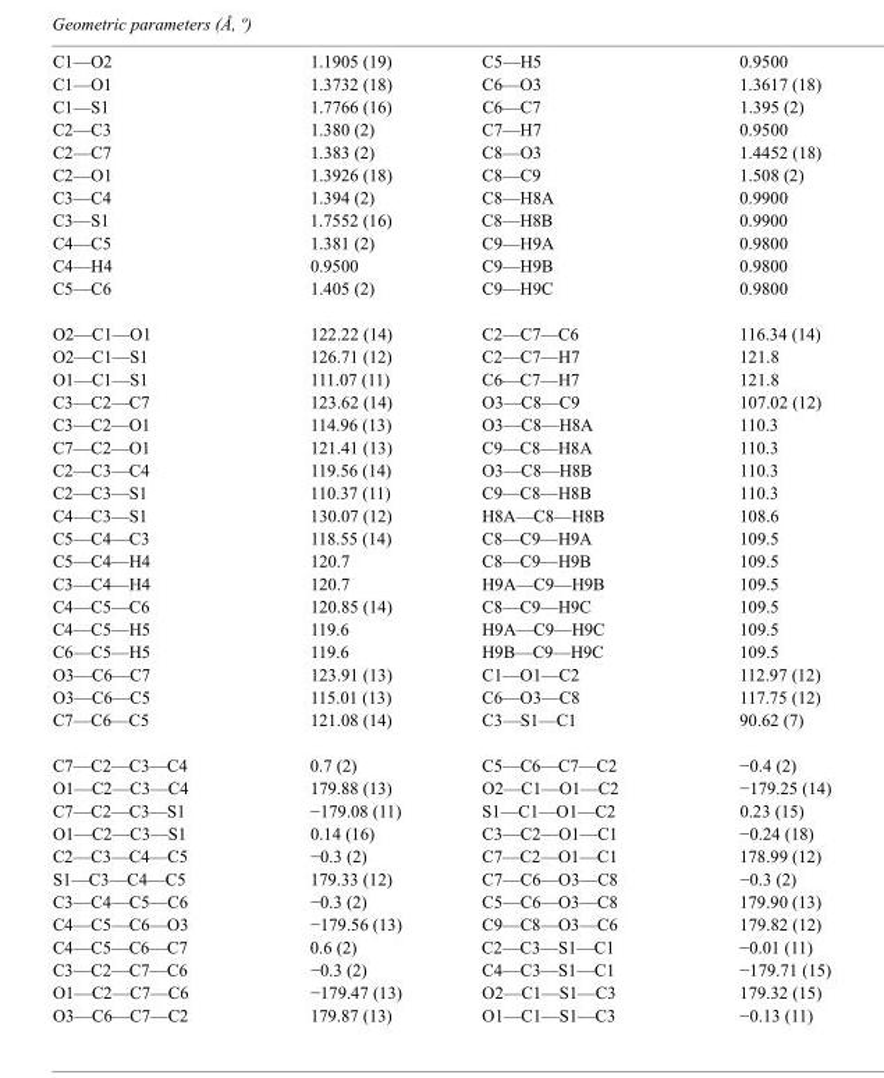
<table><tbody><tr><td>C1—O2</td><td>1.1905 (19)</td><td>C5—H5</td><td>0.9500</td></tr><tr><td>C1—O1</td><td>1.3732 (18)</td><td>C6—O3</td><td>1.3617 (18)</td></tr><tr><td>C1—S1</td><td>1.7766 (16)</td><td>C6—C7</td><td>1.395 (2)</td></tr><tr><td>C2—C3</td><td>1.380 (2)</td><td>C7—H7</td><td>0.9500</td></tr><tr><td>C2—C7</td><td>1.383 (2)</td><td>C8—O3</td><td>1.4452 (18)</td></tr><tr><td>C2—O1</td><td>1.3926 (18)</td><td>C8—C9</td><td>1.508 (2)</td></tr><tr><td>C3—C4</td><td>1.394 (2)</td><td>C8—H8A</td><td>0.9900</td></tr><tr><td>C3—S1</td><td>1.7552 (16)</td><td>C8—H8B</td><td>0.9900</td></tr><tr><td>C4—C5</td><td>1.381 (2)</td><td>C9—H9A</td><td>0.9800</td></tr><tr><td>C4—H4</td><td>0.9500</td><td>C9—H9B</td><td>0.9800</td></tr><tr><td>C5—C6</td><td>1.405 (2)</td><td>C9—H9C</td><td>0.9800</td></tr><tr><td>O2—C1—O1</td><td>122.22 (14)</td><td>C2—C7—C6</td><td>116.34 (14)</td></tr><tr><td>O2—C1—S1</td><td>126.71 (12)</td><td>C2—C7—H7</td><td>121.8</td></tr><tr><td>O1—C1—S1</td><td>111.07 (11)</td><td>C6—C7—H7</td><td>121.8</td></tr><tr><td>C3—C2—C7</td><td>123.62 (14)</td><td>O3—C8—C9</td><td>107.02 (12)</td></tr><tr><td>C3—C2—O1</td><td>114.96 (13)</td><td>O3—C8—H8A</td><td>110.3</td></tr><tr><td>C7—C2—O1</td><td>121.41 (13)</td><td>C9—C8—H8A</td><td>110.3</td></tr><tr><td>C2—C3—C4</td><td>119.56 (14)</td><td>O3—C8—H8B</td><td>110.3</td></tr><tr><td>C2—C3—S1</td><td>110.37 (11)</td><td>C9—C8—H8B</td><td>110.3</td></tr><tr><td>C4—C3—S1</td><td>130.07 (12)</td><td>H8A—C8—H8B</td><td>108.6</td></tr><tr><td>C5—C4—C3</td><td>118.55 (14)</td><td>C8—C9—H9A</td><td>109.5</td></tr><tr><td>C5—C4—H4</td><td>120.7</td><td>C8—C9—H9B</td><td>109.5</td></tr><tr><td>C3—C4—H4</td><td>120.7</td><td>H9A—C9—H9B</td><td>109.5</td></tr><tr><td>C4—C5—C6</td><td>120.85 (14)</td><td>C8—C9—H9C</td><td>109.5</td></tr><tr><td>C4—C5—H5</td><td>119.6</td><td>H9A—C9—H9C</td><td>109.5</td></tr><tr><td>C6—C5—H5</td><td>119.6</td><td>H9B—C9—H9C</td><td>109.5</td></tr><tr><td>O3—C6—C7</td><td>123.91 (13)</td><td>C1—O1—C2</td><td>112.97 (12)</td></tr><tr><td>O3—C6—C5</td><td>115.01 (13)</td><td>C6—O3—C8</td><td>117.75 (12)</td></tr><tr><td>C7—C6—C5</td><td>121.08 (14)</td><td>C3—S1—C1</td><td>90.62 (7)</td></tr><tr><td>C7—C2—C3—C4</td><td>0.7 (2)</td><td>C5—C6—C7—C2</td><td>−0.4 (2)</td></tr><tr><td>O1—C2—C3—C4</td><td>179.88 (13)</td><td>O2—C1—O1—C2</td><td>−179.25 (14)</td></tr><tr><td>C7—C2—C3—S1</td><td>−179.08 (11)</td><td>S1—C1—O1—C2</td><td>0.23 (15)</td></tr><tr><td>O1—C2—C3—S1</td><td>0.14 (16)</td><td>C3—C2—O1—C1</td><td>−0.24 (18)</td></tr><tr><td>C2—C3—C4—C5</td><td>−0.3 (2)</td><td>C7—C2—O1—C1</td><td>178.99 (12)</td></tr><tr><td>S1—C3—C4—C5</td><td>179.33 (12)</td><td>C7—C6—O3—C8</td><td>−0.3 (2)</td></tr><tr><td>C3—C4—C5—C6</td><td>−0.3 (2)</td><td>C5—C6—O3—C8</td><td>179.90 (13)</td></tr><tr><td>C4—C5—C6—O3</td><td>−179.56 (13)</td><td>C9—C8—O3—C6</td><td>179.82 (12)</td></tr><tr><td>C4—C5—C6—C7</td><td>0.6 (2)</td><td>C2—C3—S1—C1</td><td>−0.01 (11)</td></tr><tr><td>C3—C2—C7—C6</td><td>−0.3 (2)</td><td>C4—C3—S1—C1</td><td>−179.71 (15)</td></tr><tr><td>O1—C2—C7—C6</td><td>−179.47 (13)</td><td>O2—C1—S1—C3</td><td>179.32 (15)</td></tr><tr><td>O3—C6—C7—C2</td><td>179.87 (13)</td><td>O1—C1—S1—C3</td><td>−0.13 (11)</td></tr></tbody></table>